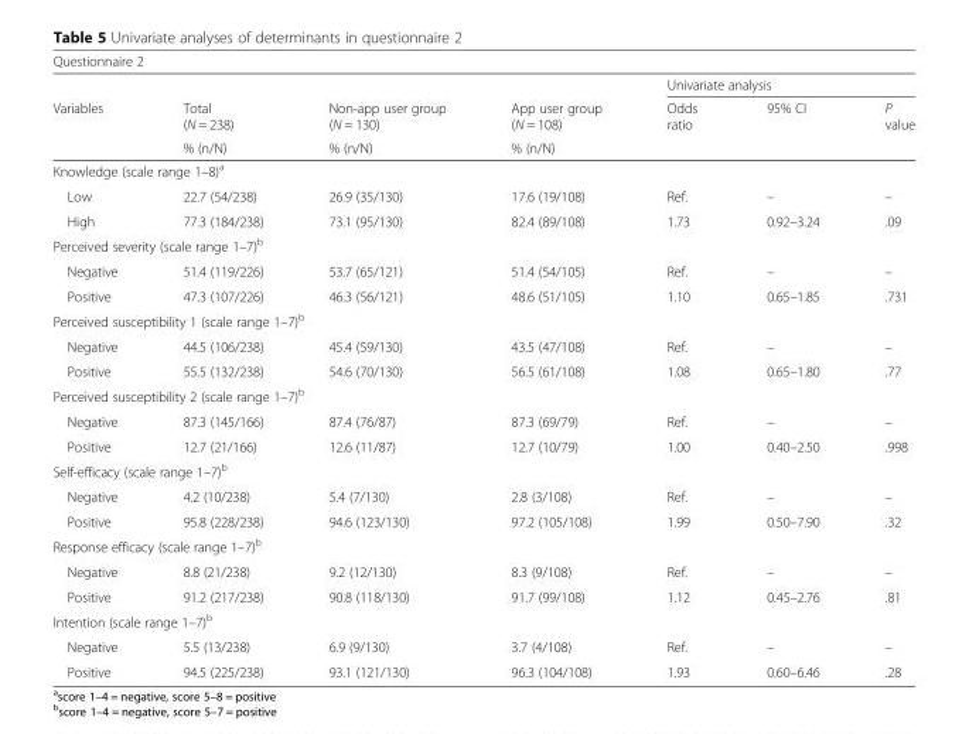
<table><thead><tr><td colspan="7">Questionnaire 2</td></tr><tr><td rowspan="3">Variables</td><td rowspan="3">Total (N = 238) % (n/N)</td><td rowspan="3">Non-app user group (N = 130) % (n/N)</td><td rowspan="3">App user group (N = 108) % (n/N)</td><td colspan="3">Univariate analysis</td></tr><tr><td rowspan="2">Odds ratio</td><td rowspan="2">95% CI</td><td rowspan="2">P value</td></tr><tr></tr></thead><tbody><tr><td colspan="7">Knowledge (scale range 1–8)<sup>a</sup></td></tr><tr><td>Low</td><td>22.7 (54/238)</td><td>26.9 (35/130)</td><td>17.6 (19/108)</td><td>Ref.</td><td>–</td><td>–</td></tr><tr><td>High</td><td>77.3 (184/238)</td><td>73.1 (95/130)</td><td>82.4 (89/108)</td><td>1.73</td><td>0.92–3.24</td><td>.09</td></tr><tr><td colspan="7">Perceived severity (scale range 1–7)<sup>b</sup></td></tr><tr><td>Negative</td><td>51.4 (119/226)</td><td>53.7 (65/121)</td><td>51.4 (54/105)</td><td>Ref.</td><td>–</td><td>–</td></tr><tr><td>Positive</td><td>47.3 (107/226)</td><td>46.3 (56/121)</td><td>48.6 (51/105)</td><td>1.10</td><td>0.65–1.85</td><td>.731</td></tr><tr><td colspan="7">Perceived susceptibility 1 (scale range 1–7)<sup>b</sup></td></tr><tr><td>Negative</td><td>44.5 (106/238)</td><td>45.4 (59/130)</td><td>43.5 (47/108)</td><td>Ref.</td><td>–</td><td>–</td></tr><tr><td>Positive</td><td>55.5 (132/238)</td><td>54.6 (70/130)</td><td>56.5 (61/108)</td><td>1.08</td><td>0.65–1.80</td><td>.77</td></tr><tr><td colspan="7">Perceived susceptibility 2 (scale range 1–7)<sup>b</sup></td></tr><tr><td>Negative</td><td>87.3 (145/166)</td><td>87.4 (76/87)</td><td>87.3 (69/79)</td><td>Ref.</td><td>–</td><td>–</td></tr><tr><td>Positive</td><td>12.7 (21/166)</td><td>12.6 (11/87)</td><td>12.7 (10/79)</td><td>1.00</td><td>0.40–2.50</td><td>.998</td></tr><tr><td colspan="7">Self-efficacy (scale range 1–7)<sup>b</sup></td></tr><tr><td>Negative</td><td>4.2 (10/238)</td><td>5.4 (7/130)</td><td>2.8 (3/108)</td><td>Ref.</td><td>–</td><td>–</td></tr><tr><td>Positive</td><td>95.8 (228/238)</td><td>94.6 (123/130)</td><td>97.2 (105/108)</td><td>1.99</td><td>0.50–7.90</td><td>.32</td></tr><tr><td colspan="7">Response efficacy (scale range 1–7)<sup>b</sup></td></tr><tr><td>Negative</td><td>8.8 (21/238)</td><td>9.2 (12/130)</td><td>8.3 (9/108)</td><td>Ref.</td><td>–</td><td>–</td></tr><tr><td>Positive</td><td>91.2 (217/238)</td><td>90.8 (118/130)</td><td>91.7 (99/108)</td><td>1.12</td><td>0.45–2.76</td><td>.81</td></tr><tr><td colspan="7">Intention (scale range 1–7)<sup>b</sup></td></tr><tr><td>Negative</td><td>5.5 (13/238)</td><td>6.9 (9/130)</td><td>3.7 (4/108)</td><td>Ref.</td><td>–</td><td>–</td></tr><tr><td>Positive</td><td>94.5 (225/238)</td><td>93.1 (121/130)</td><td>96.3 (104/108)</td><td>1.93</td><td>0.60–6.46</td><td>.28</td></tr></tbody></table>